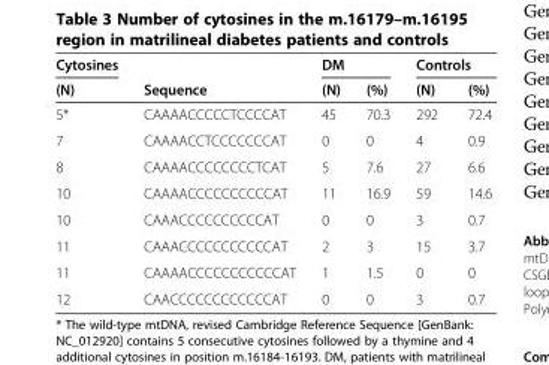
<table><thead><tr><td rowspan="2">Cytosines (N)</td><td rowspan="2">Sequence</td><td colspan="2">DM</td><td colspan="2">Controls</td></tr><tr><td>(N)</td><td>(%)</td><td>(N)</td><td>(%)</td></tr></thead><tbody><tr><td>5*</td><td>CAAAACCCCCTCCCCAT</td><td>45</td><td>70.3</td><td>292</td><td>72.4</td></tr><tr><td>7</td><td>CAAAACCTCCCCCCCAT</td><td>0</td><td>0</td><td>4</td><td>0.9</td></tr><tr><td>8</td><td>CAAAACCCCCCCCTCAT</td><td>5</td><td>7.6</td><td>27</td><td>6.6</td></tr><tr><td>10</td><td>CAAAACCCCCCCCCCAT</td><td>11</td><td>16.9</td><td>59</td><td>14.6</td></tr><tr><td>10</td><td>CAAACCCCCCCCCCAT</td><td>0</td><td>0</td><td>3</td><td>0.7</td></tr><tr><td>11</td><td>CAAACCCCCCCCCCCAT</td><td>2</td><td>3</td><td>15</td><td>3.7</td></tr><tr><td>11</td><td>CAAAACCCCCCCCCCCAT</td><td>1</td><td>1.5</td><td>0</td><td>0</td></tr><tr><td>12</td><td>CAACCCCCCCCCCCCAT</td><td>0</td><td>0</td><td>3</td><td>0.7</td></tr></tbody></table>